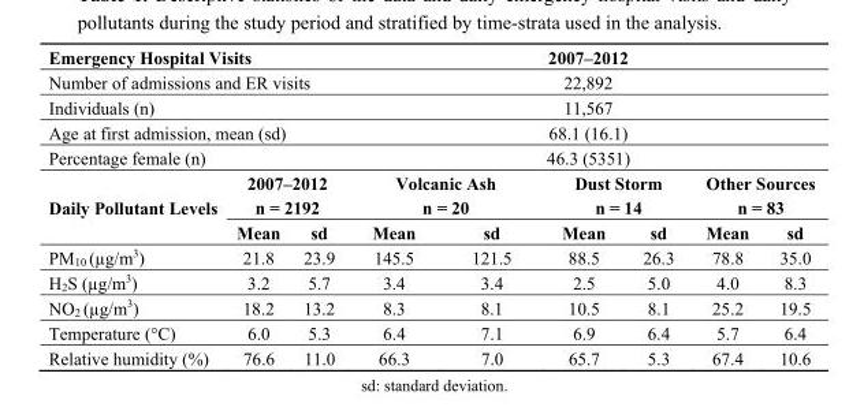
<table><thead><tr><td colspan="3">Emergency Hospital Visits</td><td colspan="6">2007–2012</td></tr></thead><tbody><tr><td colspan="3">Number of admissions and ER visits</td><td colspan="6">22,892</td></tr><tr><td colspan="3">Individuals (n)</td><td colspan="6">11,567</td></tr><tr><td colspan="3">Age at first admission, mean (sd)</td><td colspan="6">68.1 (16.1)</td></tr><tr><td colspan="3">Percentage female (n)</td><td colspan="6">46.3 (5351)</td></tr><tr><td rowspan="2">Daily Pollutant Levels</td><td colspan="2">2007–2012 n = 2192</td><td colspan="2">Volcanic Ash n = 20</td><td colspan="2">Dust Storm n = 14</td><td colspan="2">Other Sources n = 83</td></tr><tr><td>Mean</td><td>sd</td><td>Mean</td><td>sd</td><td>Mean</td><td>sd</td><td>Mean</td><td>sd</td></tr><tr><td>PM<sub>10</sub> (µg/m<sup>3</sup>)</td><td>21.8</td><td>23.9</td><td>145.5</td><td>121.5</td><td>88.5</td><td>26.3</td><td>78.8</td><td>35.0</td></tr><tr><td>H<sub>2</sub>S (µg/m<sup>3</sup>)</td><td>3.2</td><td>5.7</td><td>3.4</td><td>3.4</td><td>2.5</td><td>5.0</td><td>4.0</td><td>8.3</td></tr><tr><td>NO<sub>2</sub> (µg/m<sup>3</sup>)</td><td>18.2</td><td>13.2</td><td>8.3</td><td>8.1</td><td>10.5</td><td>8.1</td><td>25.2</td><td>19.5</td></tr><tr><td>Temperature (°C)</td><td>6.0</td><td>5.3</td><td>6.4</td><td>7.1</td><td>6.9</td><td>6.4</td><td>5.7</td><td>6.4</td></tr><tr><td>Relative humidity (%)</td><td>76.6</td><td>11.0</td><td>66.3</td><td>7.0</td><td>65.7</td><td>5.3</td><td>67.4</td><td>10.6</td></tr></tbody></table>